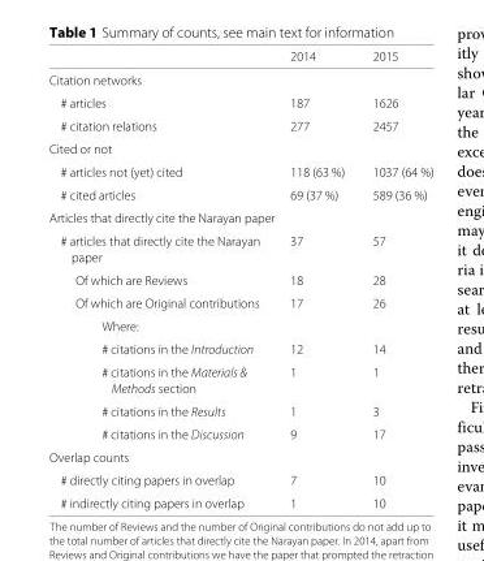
<table><thead><tr><td></td><td>2014</td><td>2015</td></tr></thead><tbody><tr><td colspan="3">Citation networks</td></tr><tr><td># articles</td><td>187</td><td>1626</td></tr><tr><td># citation relations</td><td>277</td><td>2457</td></tr><tr><td colspan="3">Cited or not</td></tr><tr><td># articles not (yet) cited</td><td>118 (63 %)</td><td>1037 (64 %)</td></tr><tr><td># cited articles</td><td>69 (37 %)</td><td>589 (36 %)</td></tr><tr><td colspan="3">Articles that directly cite the Narayan paper</td></tr><tr><td># articles that directly cite the Narayan</td><td>37</td><td>57</td></tr><tr><td colspan="3">paper</td></tr><tr><td>Of which are Reviews</td><td>18</td><td>28</td></tr><tr><td>Of which are Original contributions</td><td>17</td><td>26</td></tr><tr><td colspan="3">Where:</td></tr><tr><td># citations in the Introduction</td><td>12</td><td>14</td></tr><tr><td># citations in the Materials &amp;</td><td>1</td><td>1</td></tr><tr><td colspan="3">Methods section</td></tr><tr><td># citations in the Results</td><td>1</td><td>3</td></tr><tr><td># citations in the Discussion</td><td>9</td><td>17</td></tr><tr><td colspan="3">Overlap counts</td></tr><tr><td># directly citing papers in overlap</td><td>7</td><td>10</td></tr><tr><td># indirectly citing papers in overlap</td><td>1</td><td>10</td></tr></tbody></table>